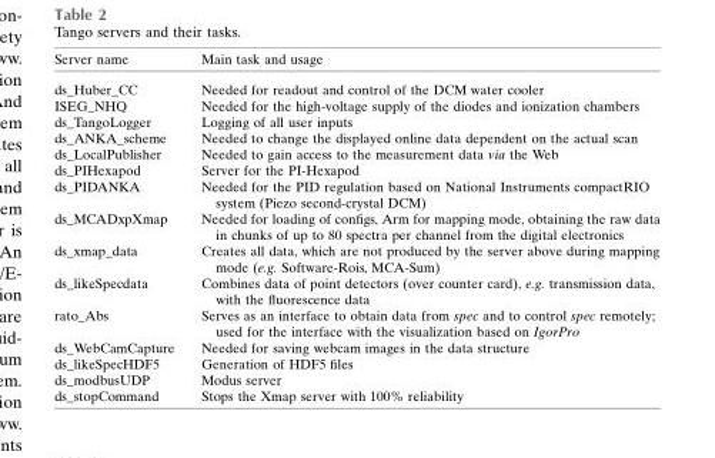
<table><thead><tr><td>Server name</td><td>Main task and usage</td></tr></thead><tbody><tr><td>ds_Huber_CC</td><td>Needed for readout and control of the DCM water cooler</td></tr><tr><td>ISEG_NHQ</td><td>Needed for the high-voltage supply of the diodes and ionization chambers</td></tr><tr><td>ds_TangoLogger</td><td>Logging of all user inputs</td></tr><tr><td>ds_ANKA_scheme</td><td>Needed to change the displayed online data dependent on the actual scan</td></tr><tr><td>ds_LocalPublisher</td><td>Needed to gain access to the measurement data via the Web</td></tr><tr><td>ds_PIHexapod</td><td>Server for the PI-Hexapod</td></tr><tr><td>ds_PIDANKA</td><td>Needed for the PID regulation based on National Instruments compactRIO system (Piezo second-crystal DCM)</td></tr><tr><td>ds_MCADxpXmap</td><td>Needed for loading of configs, Arm for mapping mode, obtaining the raw data in chunks of up to 80 spectra per channel from the digital electronics</td></tr><tr><td>ds_xmap_data</td><td>Creates all data, which are not produced by the server above during mapping mode (e.g. Software-Rois, MCA-Sum)</td></tr><tr><td>ds_likeSpecdata</td><td>Combines data of point detectors (over counter card), e.g. transmission data, with the fluorescence data</td></tr><tr><td>rato_Abs</td><td>Serves as an interface to obtain data from spec and to control spec remotely; used for the interface with the visualization based on IgorPro</td></tr><tr><td>ds_WebCamCapture</td><td>Needed for saving webcam images in the data structure</td></tr><tr><td>ds_likeSpecHDF5</td><td>Generation of HDF5 files</td></tr><tr><td>ds_modbusUDP</td><td>Modus server</td></tr><tr><td>ds_stopCommand</td><td>Stops the Xmap server with 100% reliability</td></tr></tbody></table>